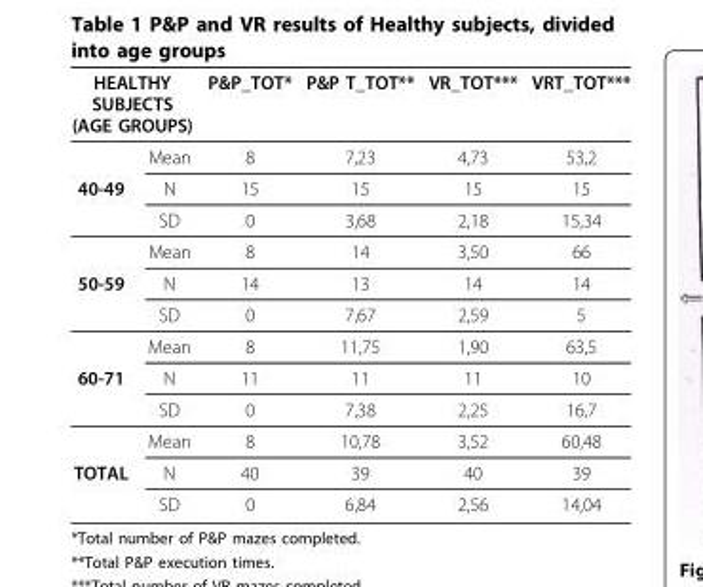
<table><thead><tr><td colspan="2">HEALTHY SUBJECTS (AGE GROUPS)</td><td rowspan="2">P&amp;P_TOT* 8</td><td rowspan="2">P&amp;P T_TOT** 7,23</td><td rowspan="2">VR_TOT*** 4,73</td><td rowspan="2">VRT_TOT*** 53,2</td></tr><tr><td></td><td>Mean</td></tr></thead><tbody><tr><td rowspan="3">40-49</td><td>N</td><td>15</td><td>15</td><td>15</td><td>15</td></tr><tr><td>SD</td><td>0</td><td>3,68</td><td>2,18</td><td>15,34</td></tr><tr><td>Mean</td><td>8</td><td>14</td><td>3,50</td><td>66</td></tr><tr><td rowspan="3">50-59</td><td>N</td><td>14</td><td>13</td><td>14</td><td>14</td></tr><tr><td>SD</td><td>0</td><td>7,67</td><td>2,59</td><td>5</td></tr><tr><td>Mean</td><td>8</td><td>11,75</td><td>1,90</td><td>63,5</td></tr><tr><td rowspan="3">60-71</td><td>N</td><td>11</td><td>11</td><td>11</td><td>10</td></tr><tr><td>SD</td><td>0</td><td>7,38</td><td>2,25</td><td>16,7</td></tr><tr><td>Mean</td><td>8</td><td>10,78</td><td>3,52</td><td>60,48</td></tr><tr><td rowspan="2">TOTAL</td><td>N</td><td>40</td><td>39</td><td>40</td><td>39</td></tr><tr><td>SD</td><td>0</td><td>6,84</td><td>2,56</td><td>14,04</td></tr></tbody></table>